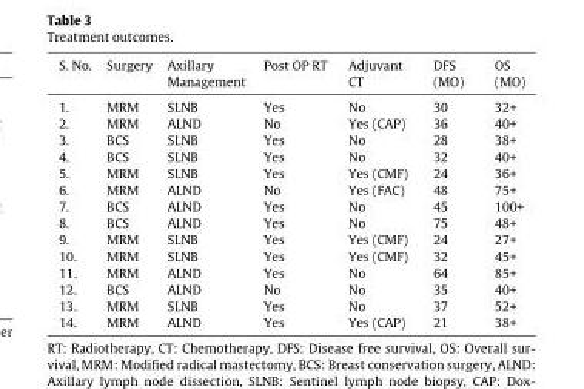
<table><thead><tr><td>S. No.</td><td>Surgery</td><td>Axillary Management</td><td>Post OP RT</td><td>Adjuvant CT</td><td>DFS (MO)</td><td>OS (MO)</td></tr></thead><tbody><tr><td>1.</td><td>MRM</td><td>SLNB</td><td>Yes</td><td>No</td><td>30</td><td>32+</td></tr><tr><td>2.</td><td>MRM</td><td>ALND</td><td>No</td><td>Yes (CAP)</td><td>36</td><td>40+</td></tr><tr><td>3.</td><td>BCS</td><td>SLNB</td><td>Yes</td><td>No</td><td>28</td><td>38+</td></tr><tr><td>4.</td><td>BCS</td><td>SLNB</td><td>Yes</td><td>No</td><td>32</td><td>40+</td></tr><tr><td>5.</td><td>MRM</td><td>SLNB</td><td>Yes</td><td>Yes (CMF)</td><td>24</td><td>36+</td></tr><tr><td>6.</td><td>MRM</td><td>ALND</td><td>No</td><td>Yes (FAC)</td><td>48</td><td>75+</td></tr><tr><td>7.</td><td>BCS</td><td>ALND</td><td>Yes</td><td>No</td><td>45</td><td>100+</td></tr><tr><td>8.</td><td>BCS</td><td>ALND</td><td>Yes</td><td>No</td><td>75</td><td>48+</td></tr><tr><td>9.</td><td>MRM</td><td>SLNB</td><td>Yes</td><td>Yes (CMF)</td><td>24</td><td>27+</td></tr><tr><td>10.</td><td>MRM</td><td>SLNB</td><td>Yes</td><td>Yes (CMF)</td><td>32</td><td>45+</td></tr><tr><td>11.</td><td>MRM</td><td>ALND</td><td>Yes</td><td>No</td><td>64</td><td>85+</td></tr><tr><td>12.</td><td>BCS</td><td>ALND</td><td>No</td><td>No</td><td>35</td><td>40+</td></tr><tr><td>13.</td><td>MRM</td><td>SLNB</td><td>Yes</td><td>No</td><td>37</td><td>52+</td></tr><tr><td>14.</td><td>MRM</td><td>ALND</td><td>Yes</td><td>Yes (CAP)</td><td>21</td><td>38+</td></tr></tbody></table>